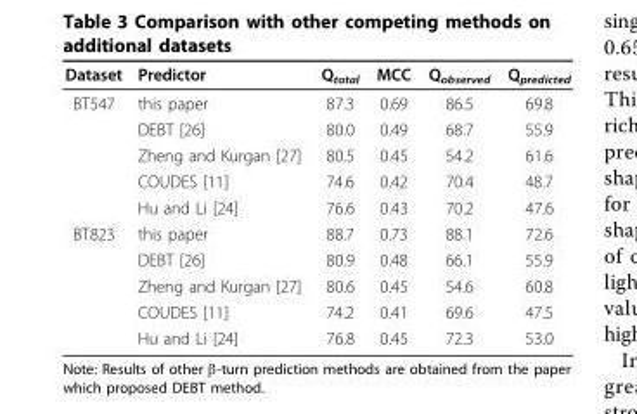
<table><thead><tr><td>Dataset</td><td>Predictor</td><td>Q<sub>total</sub></td><td>MCC</td><td>Q<sub>observed</sub></td><td>Q<sub>predicted</sub></td></tr></thead><tbody><tr><td rowspan="5">BT547</td><td>this paper</td><td>87.3</td><td>0.69</td><td>86.5</td><td>69.8</td></tr><tr><td>DEBT [26]</td><td>80.0</td><td>0.49</td><td>68.7</td><td>55.9</td></tr><tr><td>Zheng and Kurgan [27]</td><td>80.5</td><td>0.45</td><td>54.2</td><td>61.6</td></tr><tr><td>COUDES [11]</td><td>74.6</td><td>0.42</td><td>70.4</td><td>48.7</td></tr><tr><td>Hu and Li [24]</td><td>76.6</td><td>0.43</td><td>70.2</td><td>47.6</td></tr><tr><td rowspan="5">BT823</td><td>this paper</td><td>88.7</td><td>0.73</td><td>88.1</td><td>72.6</td></tr><tr><td>DEBT [26]</td><td>80.9</td><td>0.48</td><td>66.1</td><td>55.9</td></tr><tr><td>Zheng and Kurgan [27]</td><td>80.6</td><td>0.45</td><td>54.6</td><td>60.8</td></tr><tr><td>COUDES [11]</td><td>74.2</td><td>0.41</td><td>69.6</td><td>47.5</td></tr><tr><td>Hu and Li [24]</td><td>76.8</td><td>0.45</td><td>72.3</td><td>53.0</td></tr></tbody></table>